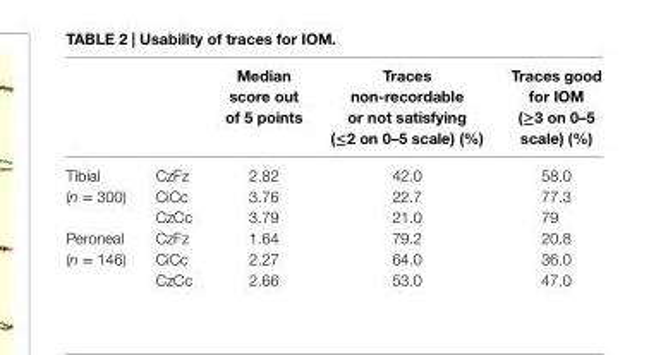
<table><thead><tr><td></td><td></td><td>Median score out of 5 points</td><td>Traces non-recordable or not satisfying (≤2 on 0–5 scale) (%)</td><td>Traces good for iOM (≥3 on 0–5 scale) (%)</td></tr></thead><tbody><tr><td rowspan="3">Tibial (n = 300)</td><td>CzFz</td><td>2.82</td><td>42.0</td><td>58.0</td></tr><tr><td>CiCc</td><td>3.76</td><td>22.7</td><td>77.3</td></tr><tr><td>CzCc</td><td>3.79</td><td>21.0</td><td>79</td></tr><tr><td rowspan="3">Peroneal (n = 146)</td><td>CzFz</td><td>1.64</td><td>79.2</td><td>20.8</td></tr><tr><td>CiCc</td><td>2.27</td><td>64.0</td><td>36.0</td></tr><tr><td>CzCc</td><td>2.66</td><td>53.0</td><td>47.0</td></tr></tbody></table>